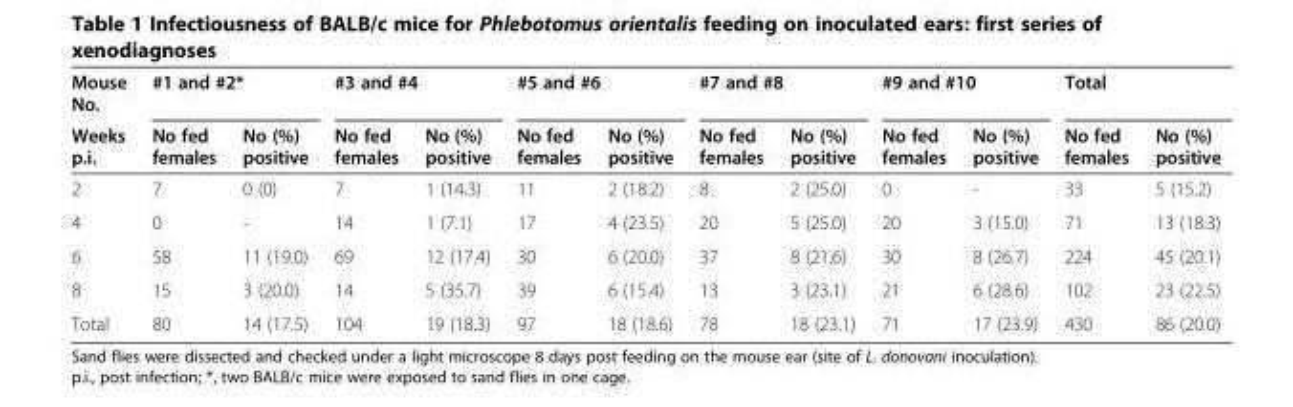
<table><thead><tr><td rowspan="2">Mouse No. Weeks p.i.</td><td colspan="2">#1 and #2*</td><td colspan="2">#3 and #4</td><td colspan="2">#5 and #6</td><td colspan="2">#7 and #8</td><td colspan="2">#9 and #10</td><td colspan="2">Total</td></tr><tr><td>No fed females</td><td>No (%) positive</td><td>No fed females</td><td>No (%) positive</td><td>No fed females</td><td>No (%) positive</td><td>No fed females</td><td>No (%) positive</td><td>No fed females</td><td>No (%) positive</td><td>No fed females</td><td>No (%) positive</td></tr></thead><tbody><tr><td>2</td><td>7</td><td>0 (0)</td><td>7</td><td>1 (14.3)</td><td>11</td><td>2 (18.2)</td><td>8</td><td>2 (25.0)</td><td>0</td><td>-</td><td>33</td><td>5 (15.2)</td></tr><tr><td>4</td><td>0</td><td>-</td><td>14</td><td>1 (7.1)</td><td>17</td><td>4 (23.5)</td><td>20</td><td>5 (25.0)</td><td>20</td><td>3 (15.0)</td><td>71</td><td>13 (18.3)</td></tr><tr><td>6</td><td>58</td><td>11 (19.0)</td><td>69</td><td>12 (17.4)</td><td>30</td><td>6 (20.0)</td><td>37</td><td>8 (21.6)</td><td>30</td><td>8 (26.7)</td><td>224</td><td>45 (20.1)</td></tr><tr><td>8</td><td>15</td><td>3 (20.0)</td><td>14</td><td>5 (35.7)</td><td>39</td><td>6 (15.4)</td><td>13</td><td>3 (23.1)</td><td>21</td><td>6 (28.6)</td><td>102</td><td>23 (22.5)</td></tr><tr><td>Total</td><td>80</td><td>14 (17.5)</td><td>104</td><td>19 (18.3)</td><td>97</td><td>18 (18.6)</td><td>78</td><td>18 (23.1)</td><td>71</td><td>17 (23.9)</td><td>430</td><td>86 (20.0)</td></tr></tbody></table>